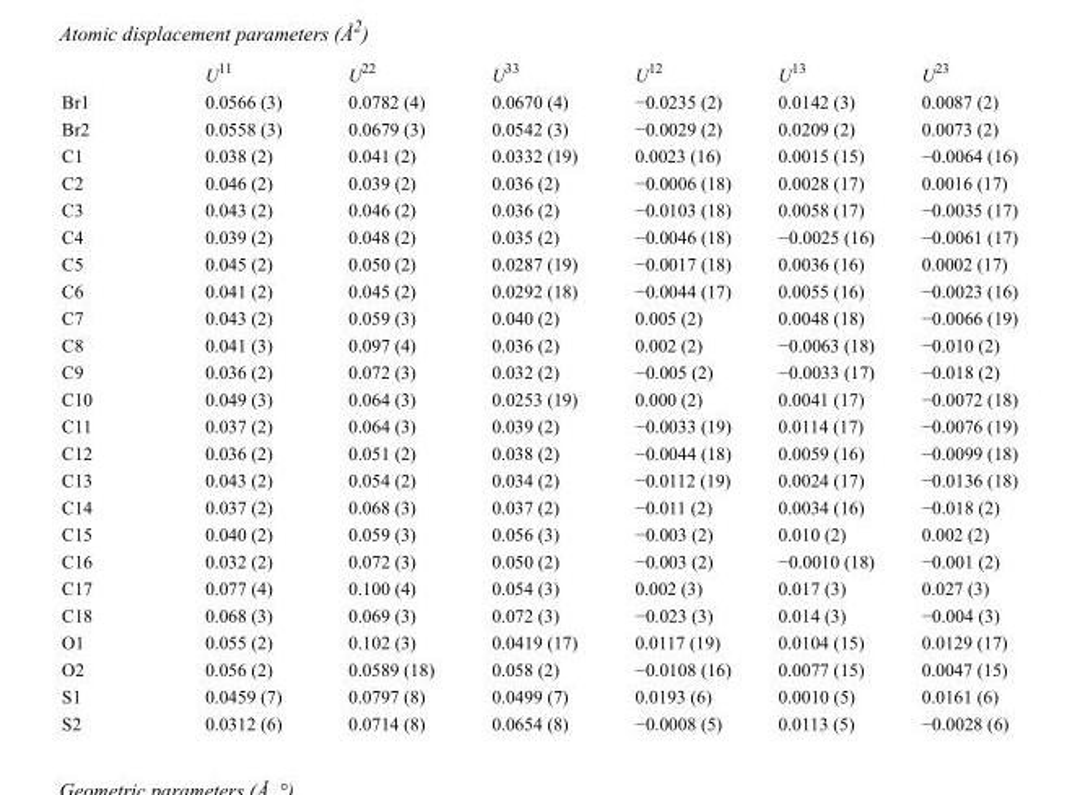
<table><thead><tr><td></td><td>U<sup>11</sup></td><td>U<sup>22</sup></td><td>U<sup>33</sup></td><td>U<sup>12</sup></td><td>U<sup>13</sup></td><td>U<sup>23</sup></td></tr></thead><tbody><tr><td>Br1</td><td>0.0566 (3)</td><td>0.0782 (4)</td><td>0.0670 (4)</td><td>−0.0235 (2)</td><td>0.0142 (3)</td><td>0.0087 (2)</td></tr><tr><td>Br2</td><td>0.0558 (3)</td><td>0.0679 (3)</td><td>0.0542 (3)</td><td>−0.0029 (2)</td><td>0.0209 (2)</td><td>0.0073 (2)</td></tr><tr><td>C1</td><td>0.038 (2)</td><td>0.041 (2)</td><td>0.0332 (19)</td><td>0.0023 (16)</td><td>0.0015 (15)</td><td>−0.0064 (16)</td></tr><tr><td>C2</td><td>0.046 (2)</td><td>0.039 (2)</td><td>0.036 (2)</td><td>−0.0006 (18)</td><td>0.0028 (17)</td><td>0.0016 (17)</td></tr><tr><td>C3</td><td>0.043 (2)</td><td>0.046 (2)</td><td>0.036 (2)</td><td>−0.0103 (18)</td><td>0.0058 (17)</td><td>−0.0035 (17)</td></tr><tr><td>C4</td><td>0.039 (2)</td><td>0.048 (2)</td><td>0.035 (2)</td><td>−0.0046 (18)</td><td>−0.0025 (16)</td><td>−0.0061 (17)</td></tr><tr><td>C5</td><td>0.045 (2)</td><td>0.050 (2)</td><td>0.0287 (19)</td><td>−0.0017 (18)</td><td>0.0036 (16)</td><td>0.0002 (17)</td></tr><tr><td>C6</td><td>0.041 (2)</td><td>0.045 (2)</td><td>0.0292 (18)</td><td>−0.0044 (17)</td><td>0.0055 (16)</td><td>−0.0023 (16)</td></tr><tr><td>C7</td><td>0.043 (2)</td><td>0.059 (3)</td><td>0.040 (2)</td><td>0.005 (2)</td><td>0.0048 (18)</td><td>−0.0066 (19)</td></tr><tr><td>C8</td><td>0.041 (3)</td><td>0.097 (4)</td><td>0.036 (2)</td><td>0.002 (2)</td><td>−0.0063 (18)</td><td>−0.010 (2)</td></tr><tr><td>C9</td><td>0.036 (2)</td><td>0.072 (3)</td><td>0.032 (2)</td><td>−0.005 (2)</td><td>−0.0033 (17)</td><td>−0.018 (2)</td></tr><tr><td>C10</td><td>0.049 (3)</td><td>0.064 (3)</td><td>0.0253 (19)</td><td>0.000 (2)</td><td>0.0041 (17)</td><td>−0.0072 (18)</td></tr><tr><td>C11</td><td>0.037 (2)</td><td>0.064 (3)</td><td>0.039 (2)</td><td>−0.0033 (19)</td><td>0.0114 (17)</td><td>−0.0076 (19)</td></tr><tr><td>C12</td><td>0.036 (2)</td><td>0.051 (2)</td><td>0.038 (2)</td><td>−0.0044 (18)</td><td>0.0059 (16)</td><td>−0.0099 (18)</td></tr><tr><td>C13</td><td>0.043 (2)</td><td>0.054 (2)</td><td>0.034 (2)</td><td>−0.0112 (19)</td><td>0.0024 (17)</td><td>−0.0136 (18)</td></tr><tr><td>C14</td><td>0.037 (2)</td><td>0.068 (3)</td><td>0.037 (2)</td><td>−0.011 (2)</td><td>0.0034 (16)</td><td>−0.018 (2)</td></tr><tr><td>C15</td><td>0.040 (2)</td><td>0.059 (3)</td><td>0.056 (3)</td><td>−0.003 (2)</td><td>0.010 (2)</td><td>0.002 (2)</td></tr><tr><td>C16</td><td>0.032 (2)</td><td>0.072 (3)</td><td>0.050 (2)</td><td>−0.003 (2)</td><td>−0.0010 (18)</td><td>−0.001 (2)</td></tr><tr><td>C17</td><td>0.077 (4)</td><td>0.100 (4)</td><td>0.054 (3)</td><td>0.002 (3)</td><td>0.017 (3)</td><td>0.027 (3)</td></tr><tr><td>C18</td><td>0.068 (3)</td><td>0.069 (3)</td><td>0.072 (3)</td><td>−0.023 (3)</td><td>0.014 (3)</td><td>−0.004 (3)</td></tr><tr><td>O1</td><td>0.055 (2)</td><td>0.102 (3)</td><td>0.0419 (17)</td><td>0.0117 (19)</td><td>0.0104 (15)</td><td>0.0129 (17)</td></tr><tr><td>O2</td><td>0.056 (2)</td><td>0.0589 (18)</td><td>0.058 (2)</td><td>−0.0108 (16)</td><td>0.0077 (15)</td><td>0.0047 (15)</td></tr><tr><td>S1</td><td>0.0459 (7)</td><td>0.0797 (8)</td><td>0.0499 (7)</td><td>0.0193 (6)</td><td>0.0010 (5)</td><td>0.0161 (6)</td></tr><tr><td>S2</td><td>0.0312 (6)</td><td>0.0714 (8)</td><td>0.0654 (8)</td><td>−0.0008 (5)</td><td>0.0113 (5)</td><td>−0.0028 (6)</td></tr></tbody></table>